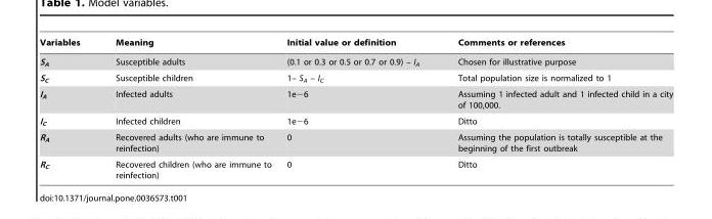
<table><thead><tr><td>Variables</td><td>Meaning</td><td>Initial value or definition</td><td>Comments or references</td></tr></thead><tbody><tr><td>S<sub>A</sub></td><td>Susceptible adults</td><td>(0.1 or 0.3 or 0.5 or 0.7 or 0.9) – I<sub>A</sub></td><td>Chosen for illustrative purpose</td></tr><tr><td>S<sub>C</sub></td><td>Susceptible children</td><td>1– S<sub>A</sub> – I<sub>C</sub></td><td>Total population size is normalized to 1</td></tr><tr><td>I<sub>A</sub></td><td>Infected adults</td><td>1e−6</td><td>Assuming 1 infected adult and 1 infected child in a city of 100,000.</td></tr><tr><td>I<sub>C</sub></td><td>Infected children</td><td>1e−6</td><td>Ditto</td></tr><tr><td>R<sub>A</sub></td><td>Recovered adults (who are immune to reinfection)</td><td>0</td><td>Assuming the population is totally susceptible at the beginning of the first outbreak</td></tr><tr><td>R<sub>C</sub></td><td>Recovered children (who are immune to reinfection)</td><td>0</td><td>Ditto</td></tr></tbody></table>